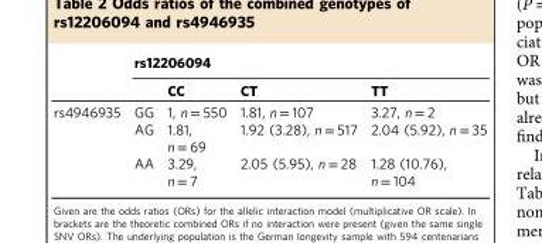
<table><thead><tr><td rowspan="2"></td><td colspan="4">rs12206094</td></tr><tr><td></td><td>CC</td><td>CT</td><td>TT</td></tr></thead><tbody><tr><td rowspan="3">rs4946935</td><td>GG</td><td>1, n = 550</td><td>1.81, n = 107</td><td>3.27, n = 2</td></tr><tr><td>AG</td><td>1.81, n = 69</td><td>1.92 (3.28), n = 517</td><td>2.04 (5.92), n = 35</td></tr><tr><td>AA</td><td>3.29, n = 7</td><td>2.05 (5.95), n = 28</td><td>1.28 (10.76), n = 104</td></tr></tbody></table>